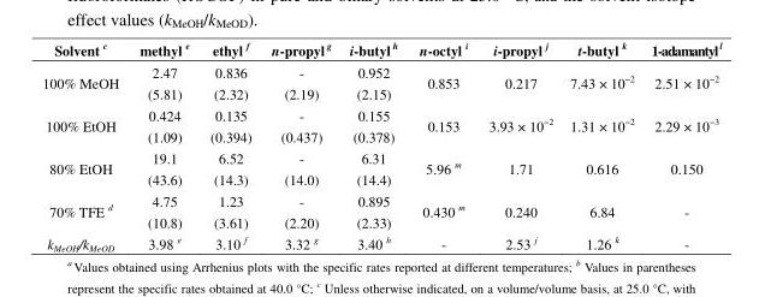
<table><thead><tr><td>Solvent c</td><td>methyl e</td><td>ethyl f</td><td>n-propyl g</td><td>i-butyl h</td><td>n-octyl i</td><td>i-propyl j</td><td>t-butyl k</td><td>1-adamantyl l</td></tr></thead><tbody><tr><td>100% MeOH</td><td>2.47 (5.81)</td><td>0.836 (2.32)</td><td>- (2.19)</td><td>0.952 (2.15)</td><td>0.853</td><td>0.217</td><td>7.43 × 10<sup>−2</sup></td><td>2.51 × 10<sup>−2</sup></td></tr><tr><td>100% EtOH</td><td>0.424 (1.09)</td><td>0.135 (0.394)</td><td>- (0.437)</td><td>0.155 (0.378)</td><td>0.153</td><td>3.93 × 10<sup>−2</sup></td><td>1.31 × 10<sup>−2</sup></td><td>2.29 × 10<sup>−3</sup></td></tr><tr><td>80% EtOH</td><td>19.1 (43.6)</td><td>6.52 (14.3)</td><td>- (14.0)</td><td>6.31 (14.4)</td><td>5.96 m</td><td>1.71</td><td>0.616</td><td>0.150</td></tr><tr><td>70% TFE d</td><td>4.75 (10.8)</td><td>1.23 (3.61)</td><td>- (2.20)</td><td>0.895 (2.33)</td><td>0.430 m</td><td>0.240</td><td>6.84</td><td>-</td></tr><tr><td>k<sub>MeOH</sub>/k<sub>MeOD</sub></td><td>3.98 e</td><td>3.10 f</td><td>3.32 g</td><td>3.40 h</td><td>-</td><td>2.53 j</td><td>1.26 k</td><td>-</td></tr></tbody></table>